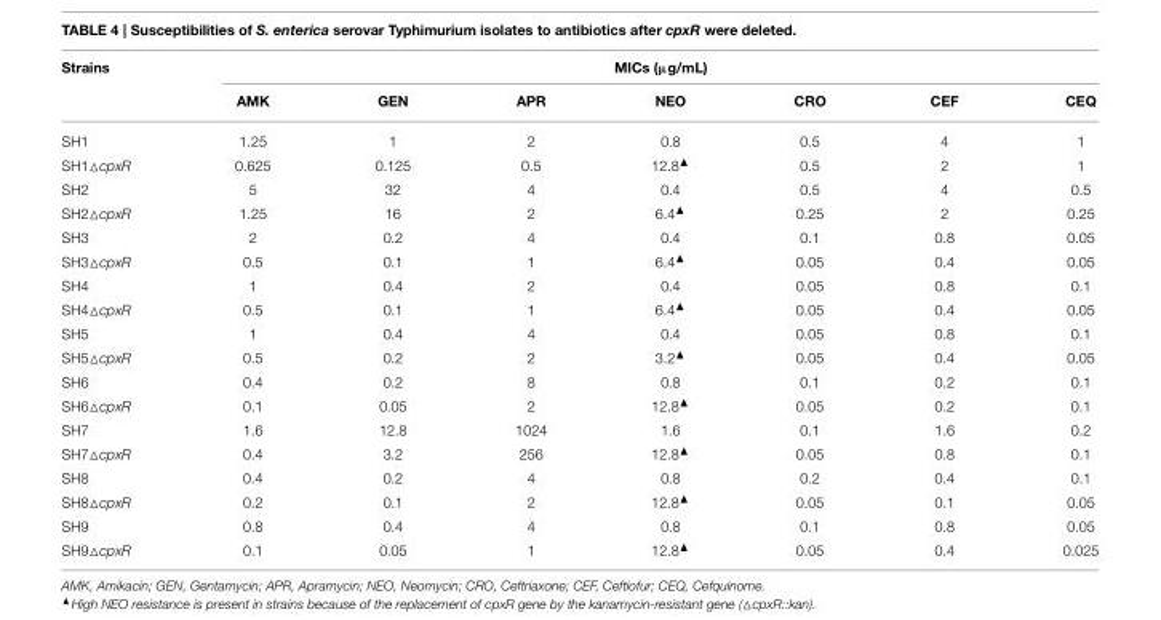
<table><thead><tr><td rowspan="2">Strains</td><td colspan="7">MICs (µg/mL)</td></tr><tr><td>AMK</td><td>GEN</td><td>APR</td><td>NEO</td><td>CRO</td><td>CEF</td><td>CEQ</td></tr></thead><tbody><tr><td>SH1</td><td>1.25</td><td>1</td><td>2</td><td>0.8</td><td>0.5</td><td>4</td><td>1</td></tr><tr><td>SH1△cpxR</td><td>0.625</td><td>0.125</td><td>0.5</td><td>12.8▲</td><td>0.5</td><td>2</td><td>1</td></tr><tr><td>SH2</td><td>5</td><td>32</td><td>4</td><td>0.4</td><td>0.5</td><td>4</td><td>0.5</td></tr><tr><td>SH2△cpxR</td><td>1.25</td><td>16</td><td>2</td><td>6.4▲</td><td>0.25</td><td>2</td><td>0.25</td></tr><tr><td>SH3</td><td>2</td><td>0.2</td><td>4</td><td>0.4</td><td>0.1</td><td>0.8</td><td>0.05</td></tr><tr><td>SH3△cpxR</td><td>0.5</td><td>0.1</td><td>1</td><td>6.4▲</td><td>0.05</td><td>0.4</td><td>0.05</td></tr><tr><td>SH4</td><td>1</td><td>0.4</td><td>2</td><td>0.4</td><td>0.05</td><td>0.8</td><td>0.1</td></tr><tr><td>SH4△cpxR</td><td>0.5</td><td>0.1</td><td>1</td><td>6.4▲</td><td>0.05</td><td>0.4</td><td>0.05</td></tr><tr><td>SH5</td><td>1</td><td>0.4</td><td>4</td><td>0.4</td><td>0.05</td><td>0.8</td><td>0.1</td></tr><tr><td>SH5△cpxR</td><td>0.5</td><td>0.2</td><td>2</td><td>3.2▲</td><td>0.05</td><td>0.4</td><td>0.05</td></tr><tr><td>SH6</td><td>0.4</td><td>0.2</td><td>8</td><td>0.8</td><td>0.1</td><td>0.2</td><td>0.1</td></tr><tr><td>SH6△cpxR</td><td>0.1</td><td>0.05</td><td>2</td><td>12.8▲</td><td>0.05</td><td>0.2</td><td>0.1</td></tr><tr><td>SH7</td><td>1.6</td><td>12.8</td><td>1024</td><td>1.6</td><td>0.1</td><td>1.6</td><td>0.2</td></tr><tr><td>SH7△cpxR</td><td>0.4</td><td>3.2</td><td>256</td><td>12.8▲</td><td>0.05</td><td>0.8</td><td>0.1</td></tr><tr><td>SH8</td><td>0.4</td><td>0.2</td><td>4</td><td>0.8</td><td>0.2</td><td>0.4</td><td>0.1</td></tr><tr><td>SH8△cpxR</td><td>0.2</td><td>0.1</td><td>2</td><td>12.8▲</td><td>0.05</td><td>0.1</td><td>0.05</td></tr><tr><td>SH9</td><td>0.8</td><td>0.4</td><td>4</td><td>0.8</td><td>0.1</td><td>0.8</td><td>0.05</td></tr><tr><td>SH9△cpxR</td><td>0.1</td><td>0.05</td><td>1</td><td>12.8▲</td><td>0.05</td><td>0.4</td><td>0.025</td></tr></tbody></table>